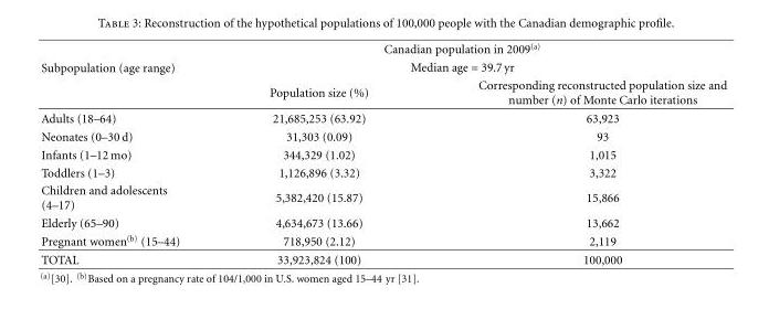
<table><thead><tr><td rowspan="3">Subpopulation (age range)</td><td rowspan="2" colspan="2">Canadian population in 2009<sup>(a)</sup> Median age = 39.7 yr</td></tr><tr></tr><tr><td>Population size (%)</td><td>Corresponding reconstructed population size and number (n) of Monte Carlo iterations</td></tr></thead><tbody><tr><td>Adults (18–64)</td><td>21,685,253 (63.92)</td><td>63,923</td></tr><tr><td>Neonates (0–30 d)</td><td>31,303 (0.09)</td><td>93</td></tr><tr><td>Infants (1–12 mo)</td><td>344,329 (1.02)</td><td>1,015</td></tr><tr><td>Toddlers (1–3)</td><td>1,126,896 (3.32)</td><td>3,322</td></tr><tr><td>Children and adolescents (4–17)</td><td>5,382,420 (15.87)</td><td>15,866</td></tr><tr><td>Elderly (65–90)</td><td>4,634,673 (13.66)</td><td>13,662</td></tr><tr><td>Pregnant women<sup>(b)</sup> (15–44)</td><td>718,950 (2.12)</td><td>2,119</td></tr><tr><td>TOTAL</td><td>33,923,824 (100)</td><td>100,000</td></tr></tbody></table>